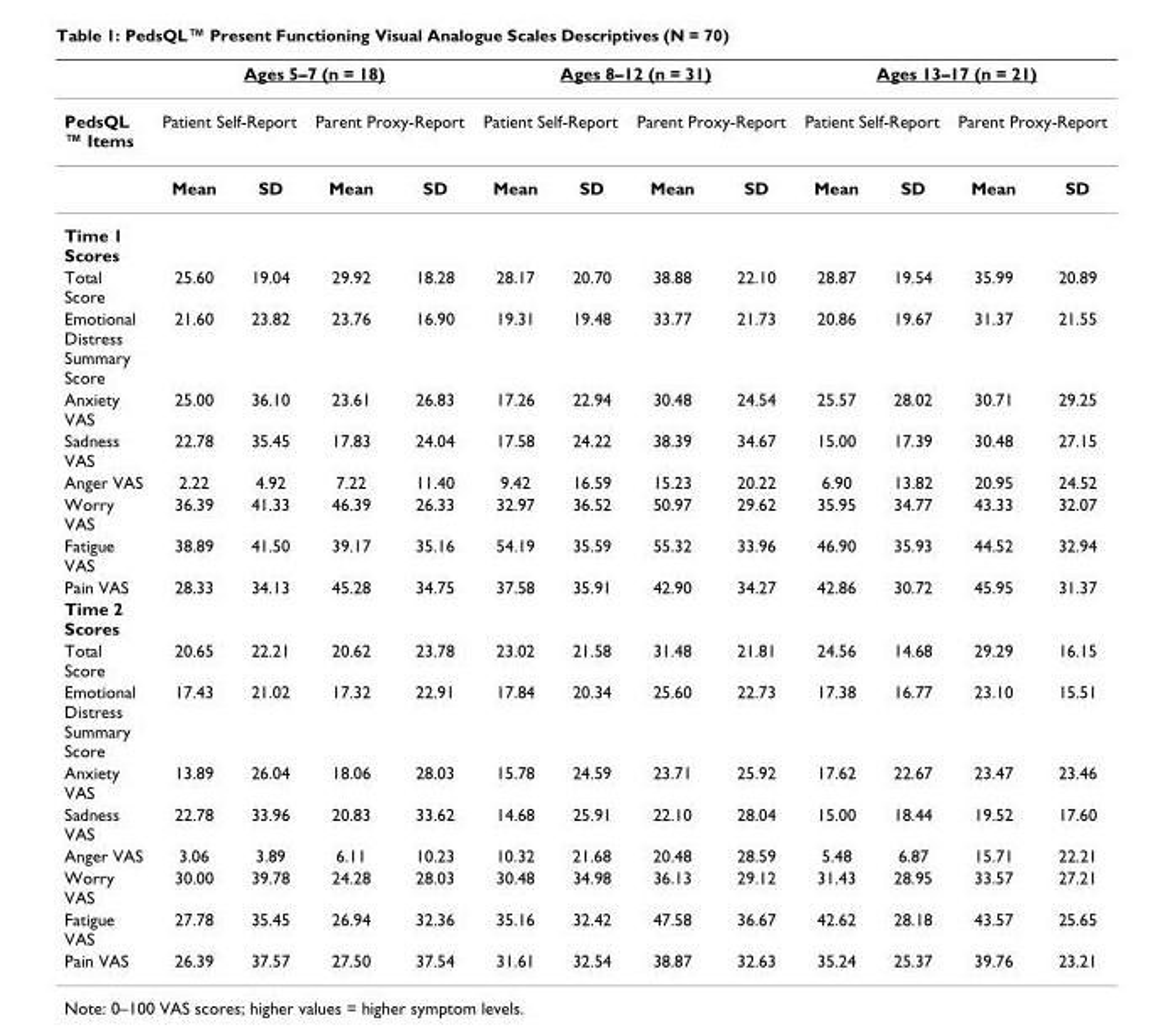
<table><thead><tr><td rowspan="3">PedsQL ™ Items</td><td colspan="4">Ages 5–7 (n = 18)</td><td colspan="4">Ages 8–12 (n = 31)</td><td colspan="4">Ages 13–17 (n = 21)</td></tr><tr><td colspan="2">Patient Self-Report</td><td colspan="2">Parent Proxy-Report</td><td colspan="2">Patient Self-Report</td><td colspan="2">Parent Proxy-Report</td><td colspan="2">Patient Self-Report</td><td colspan="2">Parent Proxy-Report</td></tr><tr><td>Mean</td><td>SD</td><td>Mean</td><td>SD</td><td>Mean</td><td>SD</td><td>Mean</td><td>SD</td><td>Mean</td><td>SD</td><td>Mean</td><td>SD</td></tr></thead><tbody><tr><td colspan="13">Time 1 Scores</td></tr><tr><td>Total Score</td><td>25.60</td><td>19.04</td><td>29.92</td><td>18.28</td><td>28.17</td><td>20.70</td><td>38.88</td><td>22.10</td><td>28.87</td><td>19.54</td><td>35.99</td><td>20.89</td></tr><tr><td>Emotional Distress Summary Score</td><td>21.60</td><td>23.82</td><td>23.76</td><td>16.90</td><td>19.31</td><td>19.48</td><td>33.77</td><td>21.73</td><td>20.86</td><td>19.67</td><td>31.37</td><td>21.55</td></tr><tr><td>Anxiety VAS</td><td>25.00</td><td>36.10</td><td>23.61</td><td>26.83</td><td>17.26</td><td>22.94</td><td>30.48</td><td>24.54</td><td>25.57</td><td>28.02</td><td>30.71</td><td>29.25</td></tr><tr><td>Sadness VAS</td><td>22.78</td><td>35.45</td><td>17.83</td><td>24.04</td><td>17.58</td><td>24.22</td><td>38.39</td><td>34.67</td><td>15.00</td><td>17.39</td><td>30.48</td><td>27.15</td></tr><tr><td>Anger VAS</td><td>2.22</td><td>4.92</td><td>7.22</td><td>11.40</td><td>9.42</td><td>16.59</td><td>15.23</td><td>20.22</td><td>6.90</td><td>13.82</td><td>20.95</td><td>24.52</td></tr><tr><td>Worry VAS</td><td>36.39</td><td>41.33</td><td>46.39</td><td>26.33</td><td>32.97</td><td>36.52</td><td>50.97</td><td>29.62</td><td>35.95</td><td>34.77</td><td>43.33</td><td>32.07</td></tr><tr><td>Fatigue VAS</td><td>38.89</td><td>41.50</td><td>39.17</td><td>35.16</td><td>54.19</td><td>35.59</td><td>55.32</td><td>33.96</td><td>46.90</td><td>35.93</td><td>44.52</td><td>32.94</td></tr><tr><td>Pain VAS</td><td>28.33</td><td>34.13</td><td>45.28</td><td>34.75</td><td>37.58</td><td>35.91</td><td>42.90</td><td>34.27</td><td>42.86</td><td>30.72</td><td>45.95</td><td>31.37</td></tr><tr><td colspan="13">Time 2 Scores</td></tr><tr><td>Total Score</td><td>20.65</td><td>22.21</td><td>20.62</td><td>23.78</td><td>23.02</td><td>21.58</td><td>31.48</td><td>21.81</td><td>24.56</td><td>14.68</td><td>29.29</td><td>16.15</td></tr><tr><td>Emotional Distress Summary Score</td><td>17.43</td><td>21.02</td><td>17.32</td><td>22.91</td><td>17.84</td><td>20.34</td><td>25.60</td><td>22.73</td><td>17.38</td><td>16.77</td><td>23.10</td><td>15.51</td></tr><tr><td>Anxiety VAS</td><td>13.89</td><td>26.04</td><td>18.06</td><td>28.03</td><td>15.78</td><td>24.59</td><td>23.71</td><td>25.92</td><td>17.62</td><td>22.67</td><td>23.47</td><td>23.46</td></tr><tr><td>Sadness VAS</td><td>22.78</td><td>33.96</td><td>20.83</td><td>33.62</td><td>14.68</td><td>25.91</td><td>22.10</td><td>28.04</td><td>15.00</td><td>18.44</td><td>19.52</td><td>17.60</td></tr><tr><td>Anger VAS</td><td>3.06</td><td>3.89</td><td>6.11</td><td>10.23</td><td>10.32</td><td>21.68</td><td>20.48</td><td>28.59</td><td>5.48</td><td>6.87</td><td>15.71</td><td>22.21</td></tr><tr><td>Worry VAS</td><td>30.00</td><td>39.78</td><td>24.28</td><td>28.03</td><td>30.48</td><td>34.98</td><td>36.13</td><td>29.12</td><td>31.43</td><td>28.95</td><td>33.57</td><td>27.21</td></tr><tr><td>Fatigue VAS</td><td>27.78</td><td>35.45</td><td>26.94</td><td>32.36</td><td>35.16</td><td>32.42</td><td>47.58</td><td>36.67</td><td>42.62</td><td>28.18</td><td>43.57</td><td>25.65</td></tr><tr><td>Pain VAS</td><td>26.39</td><td>37.57</td><td>27.50</td><td>37.54</td><td>31.61</td><td>32.54</td><td>38.87</td><td>32.63</td><td>35.24</td><td>25.37</td><td>39.76</td><td>23.21</td></tr></tbody></table>